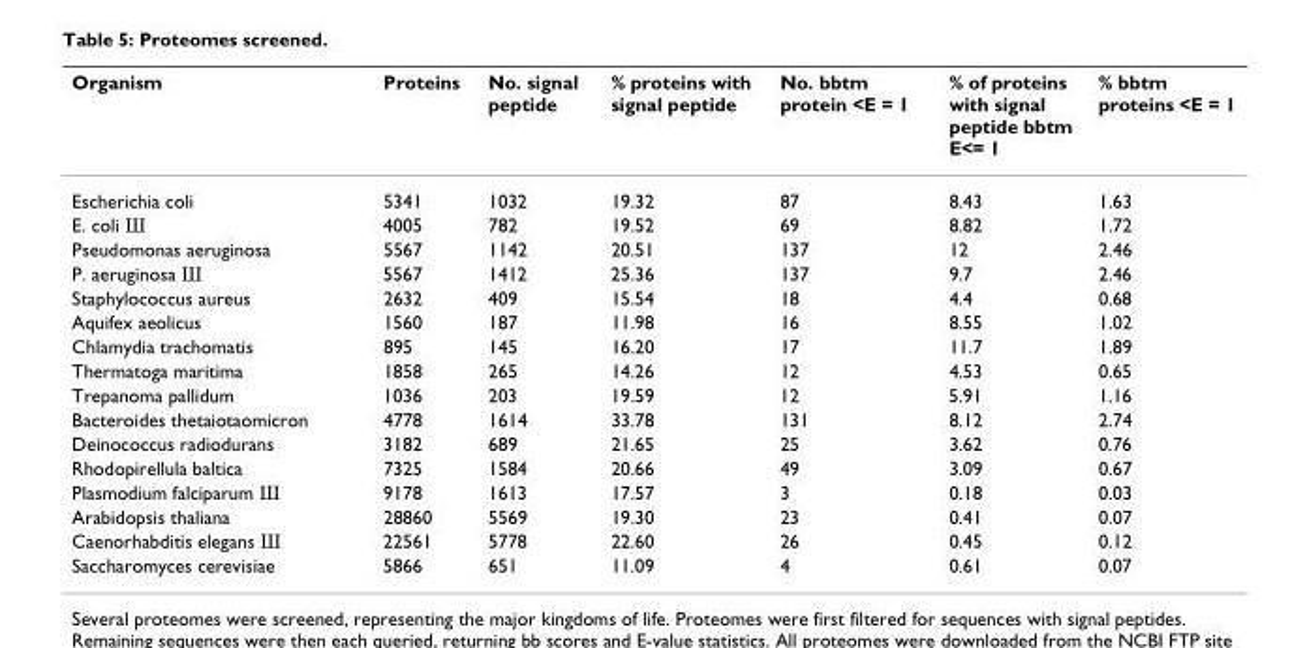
<table><thead><tr><td>Organism</td><td>Proteins</td><td>No. signal peptide</td><td>% proteins with signal peptide</td><td>No. bbtm protein &lt;E = 1</td><td>% of proteins with signal peptide bbtm E&lt;= 1</td><td>% bbtm proteins &lt;E = 1</td></tr></thead><tbody><tr><td>Escherichia coli</td><td>5341</td><td>1032</td><td>19.32</td><td>87</td><td>8.43</td><td>1.63</td></tr><tr><td>E. coli Ш</td><td>4005</td><td>782</td><td>19.52</td><td>69</td><td>8.82</td><td>1.72</td></tr><tr><td>Pseudomonas aeruginosa</td><td>5567</td><td>1142</td><td>20.51</td><td>137</td><td>12</td><td>2.46</td></tr><tr><td>P. aeruginosa Ш</td><td>5567</td><td>1412</td><td>25.36</td><td>137</td><td>9.7</td><td>2.46</td></tr><tr><td>Staphylococcus aureus</td><td>2632</td><td>409</td><td>15.54</td><td>18</td><td>4.4</td><td>0.68</td></tr><tr><td>Aquifex aeolicus</td><td>1560</td><td>187</td><td>11.98</td><td>16</td><td>8.55</td><td>1.02</td></tr><tr><td>Chlamydia trachomatis</td><td>895</td><td>145</td><td>16.20</td><td>17</td><td>11.7</td><td>1.89</td></tr><tr><td>Thermatoga maritima</td><td>1858</td><td>265</td><td>14.26</td><td>12</td><td>4.53</td><td>0.65</td></tr><tr><td>Trepanoma pallidum</td><td>1036</td><td>203</td><td>19.59</td><td>12</td><td>5.91</td><td>1.16</td></tr><tr><td>Bacteroides thetaiotaomicron</td><td>4778</td><td>1614</td><td>33.78</td><td>131</td><td>8.12</td><td>2.74</td></tr><tr><td>Deinococcus radiodurans</td><td>3182</td><td>689</td><td>21.65</td><td>25</td><td>3.62</td><td>0.76</td></tr><tr><td>Rhodopirellula baltica</td><td>7325</td><td>1584</td><td>20.66</td><td>49</td><td>3.09</td><td>0.67</td></tr><tr><td>Plasmodium falciparum Ш</td><td>9178</td><td>1613</td><td>17.57</td><td>3</td><td>0.18</td><td>0.03</td></tr><tr><td>Arabidopsis thaliana</td><td>28860</td><td>5569</td><td>19.30</td><td>23</td><td>0.41</td><td>0.07</td></tr><tr><td>Caenorhabditis elegans Ш</td><td>22561</td><td>5778</td><td>22.60</td><td>26</td><td>0.45</td><td>0.12</td></tr><tr><td>Saccharomyces cerevisiae</td><td>5866</td><td>651</td><td>11.09</td><td>4</td><td>0.61</td><td>0.07</td></tr></tbody></table>